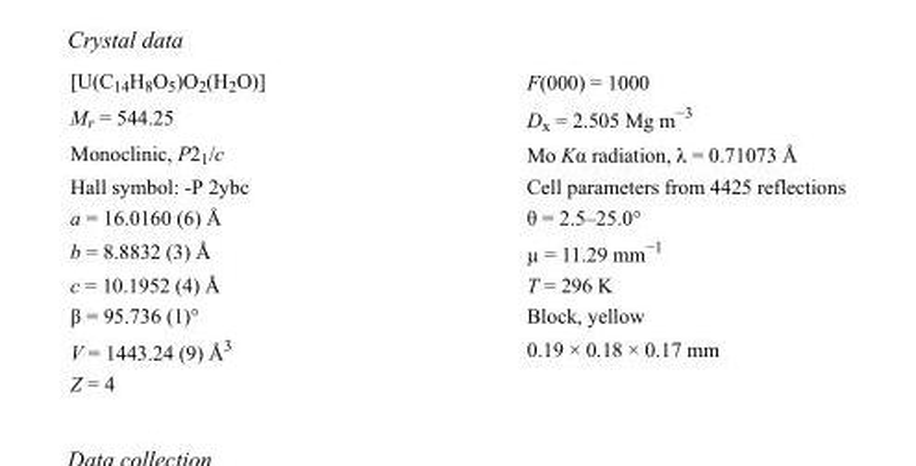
<table><tbody><tr><td>[U(C<sub>14</sub>H<sub>8</sub>O<sub>5</sub>)O<sub>2</sub>(H<sub>2</sub>O)]</td><td>F(000) = 1000</td></tr><tr><td>M<sub>r</sub> = 544.25</td><td>D<sub>x</sub> = 2.505 Mg m<sup>−3</sup></td></tr><tr><td>Monoclinic, P2<sub>1</sub>/c</td><td>Mo Kα radiation, λ = 0.71073 Å</td></tr><tr><td>Hall symbol: -P 2ybc</td><td>Cell parameters from 4425 reflections</td></tr><tr><td>a = 16.0160 (6) Å</td><td>θ = 2.5–25.0°</td></tr><tr><td>b = 8.8832 (3) Å</td><td>µ = 11.29 mm<sup>−1</sup></td></tr><tr><td>c = 10.1952 (4) Å</td><td>T = 296 K</td></tr><tr><td>β = 95.736 (1)°</td><td>Block, yellow</td></tr><tr><td>V = 1443.24 (9) Å<sup>3</sup></td><td>0.19 × 0.18 × 0.17 mm</td></tr><tr><td>Z = 4</td><td></td></tr></tbody></table>